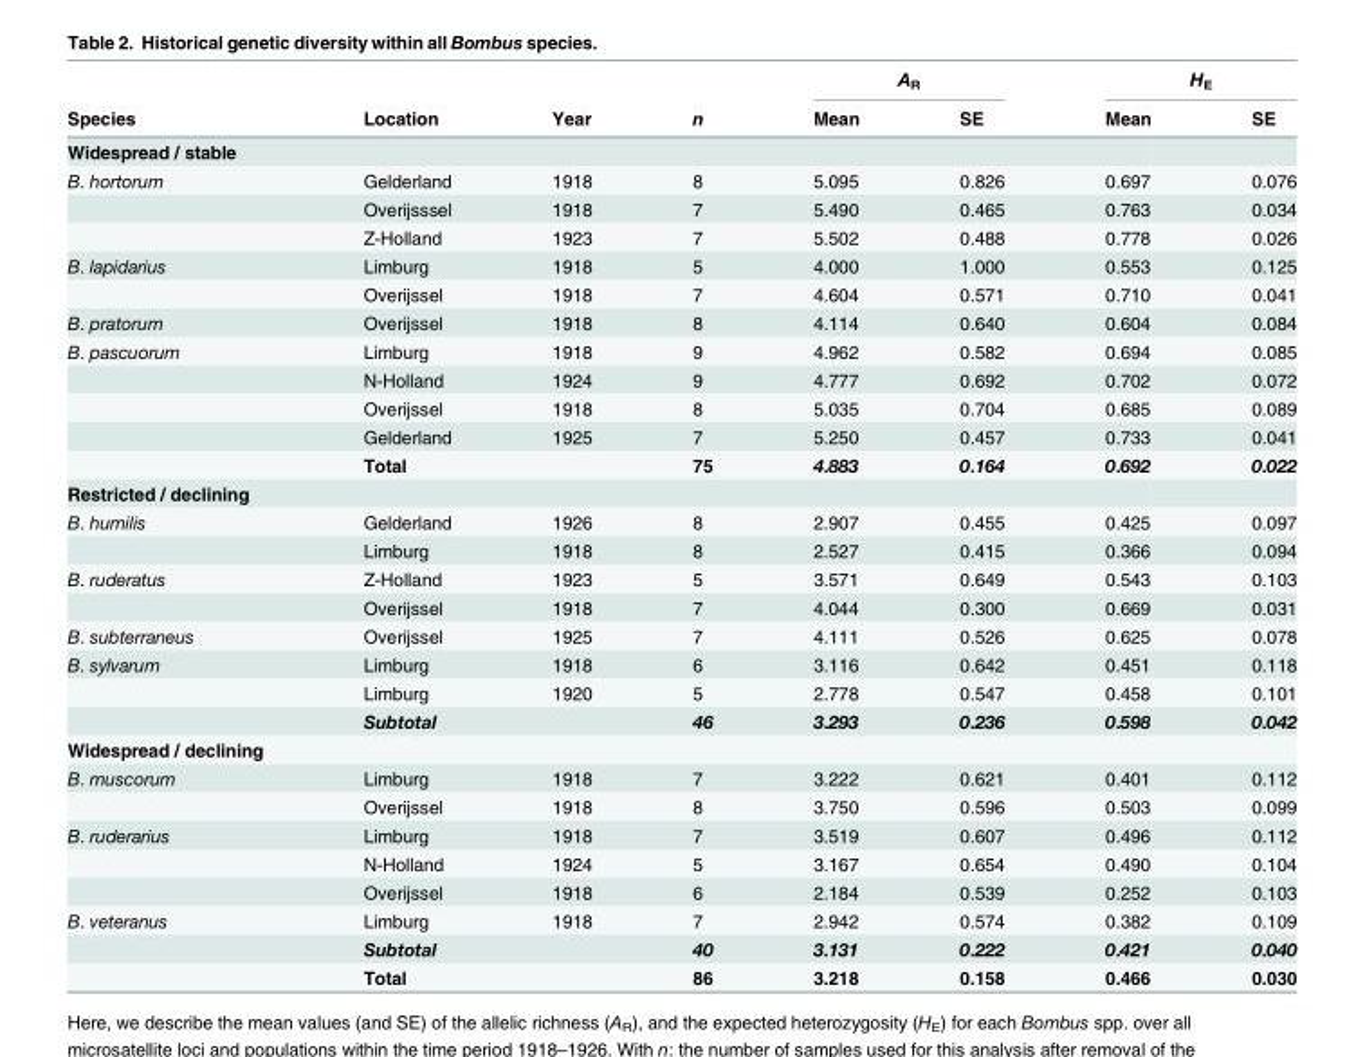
<table><thead><tr><td rowspan="2">Species</td><td rowspan="2">Location</td><td rowspan="2">Year</td><td rowspan="2">n</td><td colspan="2">A<sub>R</sub></td><td colspan="2">H<sub>E</sub></td></tr><tr><td>Mean</td><td>SE</td><td>Mean</td><td>SE</td></tr></thead><tbody><tr><td colspan="8">Widespread / stable</td></tr><tr><td rowspan="3">B. hortorum</td><td>Gelderland</td><td>1918</td><td>8</td><td>5.095</td><td>0.826</td><td>0.697</td><td>0.076</td></tr><tr><td>Overijsssel</td><td>1918</td><td>7</td><td>5.490</td><td>0.465</td><td>0.763</td><td>0.034</td></tr><tr><td>Z-Holland</td><td>1923</td><td>7</td><td>5.502</td><td>0.488</td><td>0.778</td><td>0.026</td></tr><tr><td rowspan="2">B. lapidarius</td><td>Limburg</td><td>1918</td><td>5</td><td>4.000</td><td>1.000</td><td>0.553</td><td>0.125</td></tr><tr><td>Overijssel</td><td>1918</td><td>7</td><td>4.604</td><td>0.571</td><td>0.710</td><td>0.041</td></tr><tr><td>B. pratorum</td><td>Overijssel</td><td>1918</td><td>8</td><td>4.114</td><td>0.640</td><td>0.604</td><td>0.084</td></tr><tr><td rowspan="5">B. pascuorum</td><td>Limburg</td><td>1918</td><td>9</td><td>4.962</td><td>0.582</td><td>0.694</td><td>0.085</td></tr><tr><td>N-Holland</td><td>1924</td><td>9</td><td>4.777</td><td>0.692</td><td>0.702</td><td>0.072</td></tr><tr><td>Overijssel</td><td>1918</td><td>8</td><td>5.035</td><td>0.704</td><td>0.685</td><td>0.089</td></tr><tr><td>Gelderland</td><td>1925</td><td>7</td><td>5.250</td><td>0.457</td><td>0.733</td><td>0.041</td></tr><tr><td>Total</td><td></td><td>75</td><td>4.883</td><td>0.164</td><td>0.692</td><td>0.022</td></tr><tr><td colspan="8">Restricted / declining</td></tr><tr><td rowspan="2">B. humilis</td><td>Gelderland</td><td>1926</td><td>8</td><td>2.907</td><td>0.455</td><td>0.425</td><td>0.097</td></tr><tr><td>Limburg</td><td>1918</td><td>8</td><td>2.527</td><td>0.415</td><td>0.366</td><td>0.094</td></tr><tr><td rowspan="2">B. ruderatus</td><td>Z-Holland</td><td>1923</td><td>5</td><td>3.571</td><td>0.649</td><td>0.543</td><td>0.103</td></tr><tr><td>Overijssel</td><td>1918</td><td>7</td><td>4.044</td><td>0.300</td><td>0.669</td><td>0.031</td></tr><tr><td>B. subterraneus</td><td>Overijssel</td><td>1925</td><td>7</td><td>4.111</td><td>0.526</td><td>0.625</td><td>0.078</td></tr><tr><td rowspan="3">B. sylvarum</td><td>Limburg</td><td>1918</td><td>6</td><td>3.116</td><td>0.642</td><td>0.451</td><td>0.118</td></tr><tr><td>Limburg</td><td>1920</td><td>5</td><td>2.778</td><td>0.547</td><td>0.458</td><td>0.101</td></tr><tr><td>Subtotal</td><td></td><td>46</td><td>3.293</td><td>0.236</td><td>0.598</td><td>0.042</td></tr><tr><td colspan="8">Widespread / declining</td></tr><tr><td rowspan="2">B. muscorum</td><td>Limburg</td><td>1918</td><td>7</td><td>3.222</td><td>0.621</td><td>0.401</td><td>0.112</td></tr><tr><td>Overijssel</td><td>1918</td><td>8</td><td>3.750</td><td>0.596</td><td>0.503</td><td>0.099</td></tr><tr><td rowspan="3">B. ruderarius</td><td>Limburg</td><td>1918</td><td>7</td><td>3.519</td><td>0.607</td><td>0.496</td><td>0.112</td></tr><tr><td>N-Holland</td><td>1924</td><td>5</td><td>3.167</td><td>0.654</td><td>0.490</td><td>0.104</td></tr><tr><td>Overijssel</td><td>1918</td><td>6</td><td>2.184</td><td>0.539</td><td>0.252</td><td>0.103</td></tr><tr><td rowspan="3">B. veteranus</td><td>Limburg</td><td>1918</td><td>7</td><td>2.942</td><td>0.574</td><td>0.382</td><td>0.109</td></tr><tr><td>Subtotal</td><td></td><td>40</td><td>3.131</td><td>0.222</td><td>0.421</td><td>0.040</td></tr><tr><td>Total</td><td></td><td>86</td><td>3.218</td><td>0.158</td><td>0.466</td><td>0.030</td></tr></tbody></table>